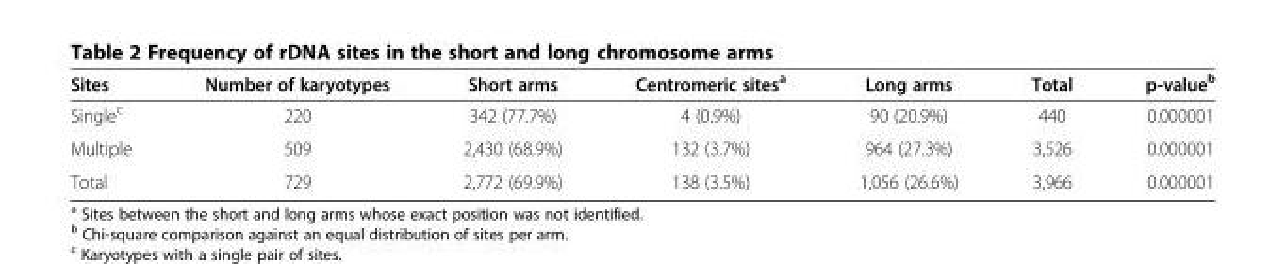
<table><thead><tr><td>Sites</td><td>Number of karyotypes</td><td>Short arms</td><td>Centromeric sites<sup>a</sup></td><td>Long arms</td><td>Total</td><td>p-value<sup>b</sup></td></tr></thead><tbody><tr><td>Single<sup>c</sup></td><td>220</td><td>342 (77.7%)</td><td>4 (0.9%)</td><td>90 (20.9%)</td><td>440</td><td>0.000001</td></tr><tr><td>Multiple</td><td>509</td><td>2,430 (68.9%)</td><td>132 (3.7%)</td><td>964 (27.3%)</td><td>3,526</td><td>0.000001</td></tr><tr><td>Total</td><td>729</td><td>2,772 (69.9%)</td><td>138 (3.5%)</td><td>1,056 (26.6%)</td><td>3,966</td><td>0.000001</td></tr></tbody></table>